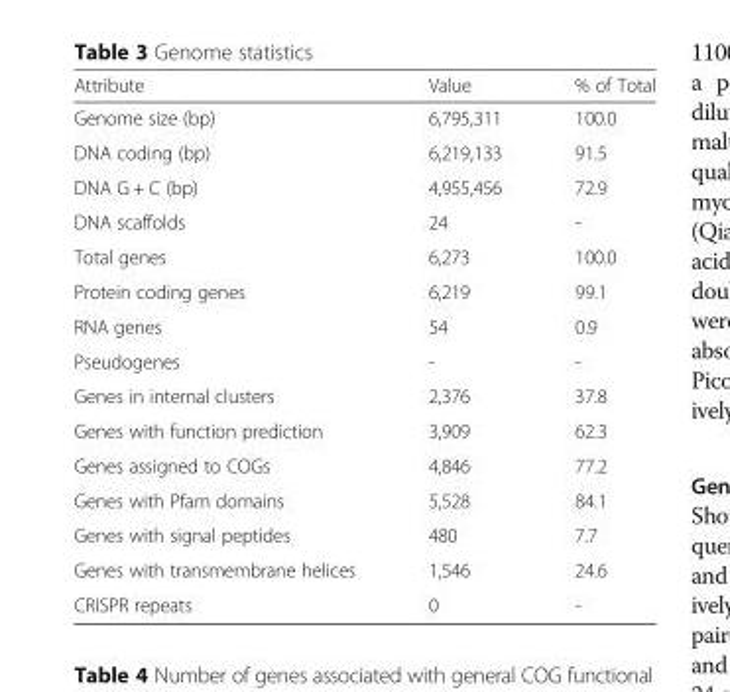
<table><thead><tr><td>Attribute</td><td>Value</td><td>% of Total</td></tr></thead><tbody><tr><td>Genome size (bp)</td><td>6,795,311</td><td>100.0</td></tr><tr><td>DNA coding (bp)</td><td>6,219,133</td><td>91.5</td></tr><tr><td>DNA G + C (bp)</td><td>4,955,456</td><td>72.9</td></tr><tr><td>DNA scaffolds</td><td>24</td><td>-</td></tr><tr><td>Total genes</td><td>6,273</td><td>100.0</td></tr><tr><td>Protein coding genes</td><td>6,219</td><td>99.1</td></tr><tr><td>RNA genes</td><td>54</td><td>0.9</td></tr><tr><td>Pseudogenes</td><td>-</td><td>-</td></tr><tr><td>Genes in internal clusters</td><td>2,376</td><td>37.8</td></tr><tr><td>Genes with function prediction</td><td>3,909</td><td>62.3</td></tr><tr><td>Genes assigned to COGs</td><td>4,846</td><td>77.2</td></tr><tr><td>Genes with Pfam domains</td><td>5,528</td><td>84.1</td></tr><tr><td>Genes with signal peptides</td><td>480</td><td>7.7</td></tr><tr><td>Genes with transmembrane helices</td><td>1,546</td><td>24.6</td></tr><tr><td>CRISPR repeats</td><td>0</td><td>-</td></tr></tbody></table>